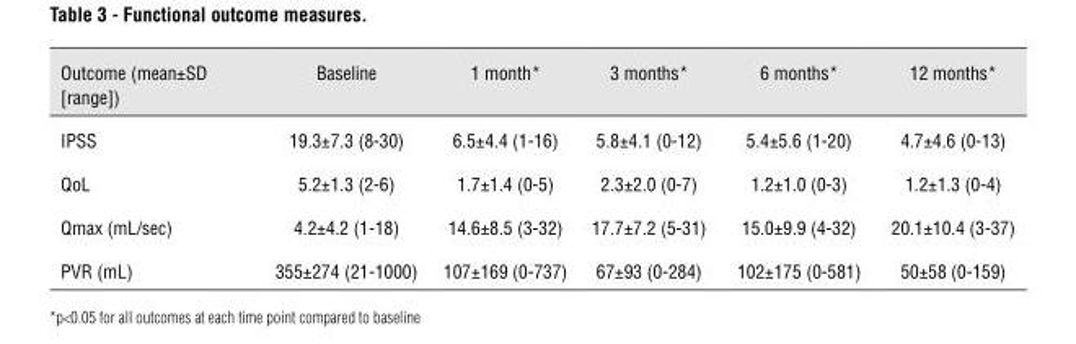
<table><thead><tr><td>Outcome (mean±SD [range])</td><td>Baseline</td><td>1 month*</td><td>3 months*</td><td>6 months*</td><td>12 months*</td></tr></thead><tbody><tr><td>IPSS</td><td>19.3±7.3 (8-30)</td><td>6.5±4.4 (1-16)</td><td>5.8±4.1 (0-12)</td><td>5.4±5.6 (1-20)</td><td>4.7±4.6 (0-13)</td></tr><tr><td>QoL</td><td>5.2±1.3 (2-6)</td><td>1.7±1.4 (0-5)</td><td>2.3±2.0 (0-7)</td><td>1.2±1.0 (0-3)</td><td>1.2±1.3 (0-4)</td></tr><tr><td>Qmax (mL/sec)</td><td>4.2±4.2 (1-18)</td><td>14.6±8.5 (3-32)</td><td>17.7±7.2 (5-31)</td><td>15.0±9.9 (4-32)</td><td>20.1±10.4 (3-37)</td></tr><tr><td>PVR (mL)</td><td>355±274 (21-1000)</td><td>107±169 (0-737)</td><td>67±93 (0-284)</td><td>102±175 (0-581)</td><td>50±58 (0-159)</td></tr></tbody></table>